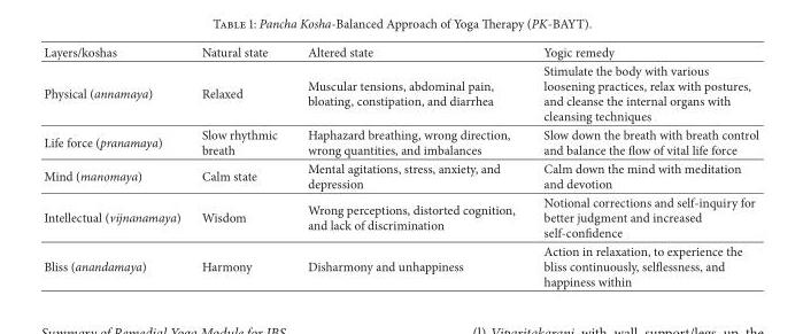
<table><thead><tr><td>Layers/koshas</td><td>Natural state</td><td>Altered state</td><td>Yogic remedy</td></tr></thead><tbody><tr><td>Physical (annamaya)</td><td>Relaxed</td><td>Muscular tensions, abdominal pain, bloating, constipation, and diarrhea</td><td>Stimulate the body with various loosening practices, relax with postures, and cleanse the internal organs with cleansing techniques</td></tr><tr><td>Life force (pranamaya)</td><td>Slow rhythmic breath</td><td>Haphazard breathing, wrong direction, wrong quantities, and imbalances</td><td>Slow down the breath with breath control and balance the flow of vital life force</td></tr><tr><td>Mind (manomaya)</td><td>Calm state</td><td>Mental agitations, stress, anxiety, and depression</td><td>Calm down the mind with meditation and devotion</td></tr><tr><td>Intellectual (vijnanamaya)</td><td>Wisdom</td><td>Wrong perceptions, distorted cognition, and lack of discrimination</td><td>Notional corrections and self-inquiry for better judgment and increased self-confidence</td></tr><tr><td>Bliss (anandamaya)</td><td>Harmony</td><td>Disharmony and unhappiness</td><td>Action in relaxation, to experience the bliss continuously, selflessness, and happiness within</td></tr></tbody></table>